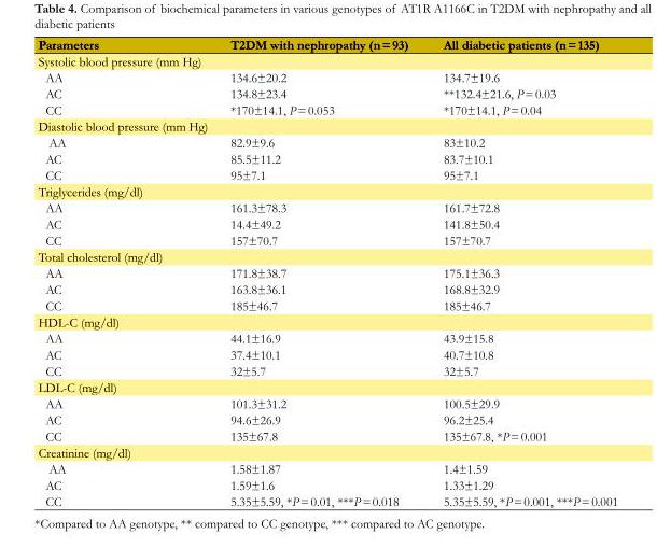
<table><tbody><tr><td>Parameters</td><td>T2DM with nephropathy (n = 93)</td><td>All diabetic patients (n = 135)</td></tr><tr><td colspan="3">Systolic blood pressure (mm Hg)</td></tr><tr><td>AA</td><td>134.6±20.2</td><td>134.7±19.6</td></tr><tr><td>AC</td><td>134.8±23.4</td><td>**132.4±21.6, P = 0.03</td></tr><tr><td>CC</td><td>*170±14.1, P = 0.053</td><td>*170±14.1, P = 0.04</td></tr><tr><td colspan="3">Diastolic blood pressure (mm Hg)</td></tr><tr><td>AA</td><td>82.9±9.6</td><td>83±10.2</td></tr><tr><td>AC</td><td>85.5±11.2</td><td>83.7±10.1</td></tr><tr><td>CC</td><td>95±7.1</td><td>95±7.1</td></tr><tr><td colspan="3">Triglycerides (mg/dl)</td></tr><tr><td>AA</td><td>161.3±78.3</td><td>161.7±72.8</td></tr><tr><td>AC</td><td>14.4±49.2</td><td>141.8±50.4</td></tr><tr><td>CC</td><td>157±70.7</td><td>157±70.7</td></tr><tr><td colspan="3">Total cholesterol (mg/dl)</td></tr><tr><td>AA</td><td>171.8±38.7</td><td>175.1±36.3</td></tr><tr><td>AC</td><td>163.8±36.1</td><td>168.8±32.9</td></tr><tr><td>CC</td><td>185±46.7</td><td>185±46.7</td></tr><tr><td colspan="3">HDL-C (mg/dl)</td></tr><tr><td>AA</td><td>44.1±16.9</td><td>43.9±15.8</td></tr><tr><td>AC</td><td>37.4±10.1</td><td>40.7±10.8</td></tr><tr><td>CC</td><td>32±5.7</td><td>32±5.7</td></tr><tr><td colspan="3">LDL-C (mg/dl)</td></tr><tr><td>AA</td><td>101.3±31.2</td><td>100.5±29.9</td></tr><tr><td>AC</td><td>94.6±26.9</td><td>96.2±25.4</td></tr><tr><td>CC</td><td>135±67.8</td><td>135±67.8, *P = 0.001</td></tr><tr><td colspan="3">Creatinine (mg/dl)</td></tr><tr><td>AA</td><td>1.58±1.87</td><td>1.4±1.59</td></tr><tr><td>AC</td><td>1.59±1.6</td><td>1.33±1.29</td></tr><tr><td>CC</td><td>5.35±5.59, *P = 0.01, ***P = 0.018</td><td>5.35±5.59, *P = 0.001, ***P = 0.001</td></tr></tbody></table>